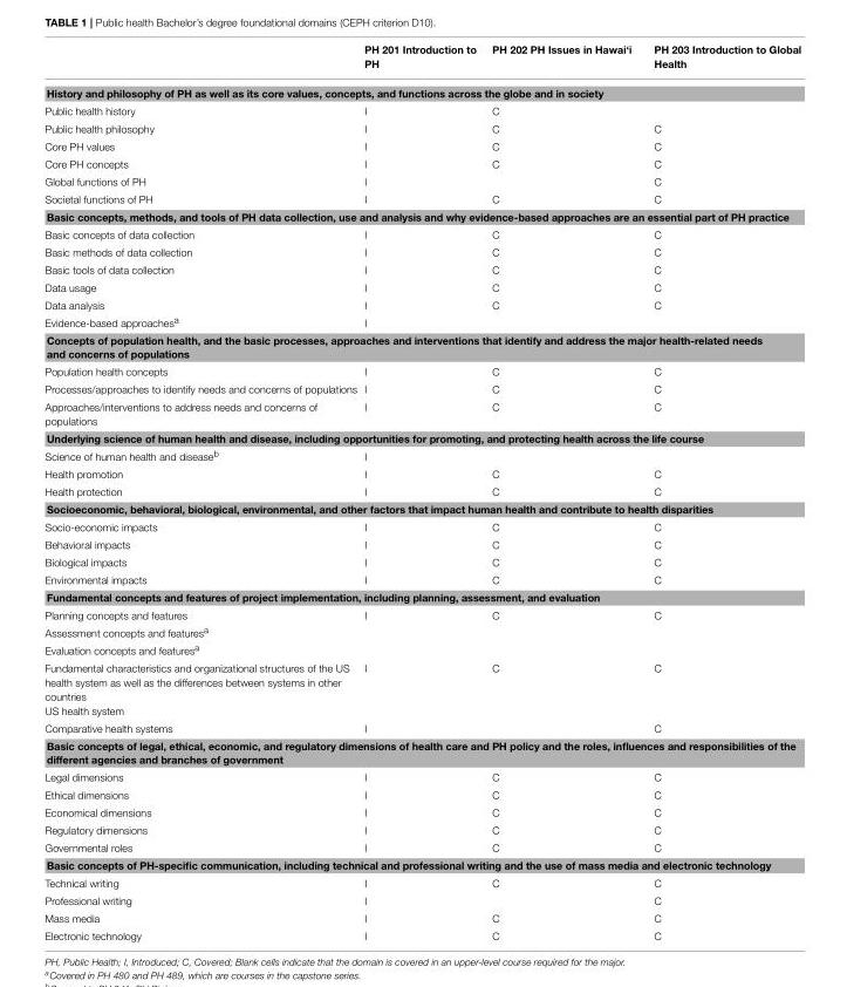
<table><thead><tr><td></td><td>PH 201 Introduction to PH</td><td>PH 202 PH Issues in Hawai‘i</td><td>PH 203 Introduction to Global Health</td></tr></thead><tbody><tr><td colspan="4">History and philosophy of PH as well as its core values, concepts, and functions across the globe and in society</td></tr><tr><td>Public health history</td><td>I</td><td>C</td><td></td></tr><tr><td>Public health philosophy</td><td>I</td><td>C</td><td>C</td></tr><tr><td>Core PH values</td><td>I</td><td>C</td><td>C</td></tr><tr><td>Core PH concepts</td><td>I</td><td>C</td><td>C</td></tr><tr><td>Global functions of PH</td><td>I</td><td></td><td>C</td></tr><tr><td>Societal functions of PH</td><td>I</td><td>C</td><td>C</td></tr><tr><td colspan="4">Basic concepts, methods, and tools of PH data collection, use and analysis and why evidence-based approaches are an essential part of PH practice</td></tr><tr><td>Basic concepts of data collection</td><td>I</td><td>C</td><td>C</td></tr><tr><td>Basic methods of data collection</td><td>I</td><td>C</td><td>C</td></tr><tr><td>Basic tools of data collection</td><td>I</td><td>C</td><td>C</td></tr><tr><td>Data usage</td><td>I</td><td>C</td><td>C</td></tr><tr><td>Data analysis</td><td>I</td><td>C</td><td>C</td></tr><tr><td>Evidence-based approaches<sup>a</sup></td><td>I</td><td></td><td></td></tr><tr><td colspan="4">Concepts of population health, and the basic processes, approaches and interventions that identify and address the major health-related needs and concerns of populations</td></tr><tr><td>Population health concepts</td><td>I</td><td>C</td><td>C</td></tr><tr><td>Processes/approaches to identify needs and concerns of populations</td><td>I</td><td>C</td><td>C</td></tr><tr><td>Approaches/interventions to address needs and concerns of populations</td><td>I</td><td>C</td><td>C</td></tr><tr><td colspan="4">Underlying science of human health and disease, including opportunities for promoting, and protecting health across the life course</td></tr><tr><td>Science of human health and disease<sup>b</sup></td><td>I</td><td></td><td></td></tr><tr><td>Health promotion</td><td>I</td><td>C</td><td>C</td></tr><tr><td>Health protection</td><td>I</td><td>C</td><td>C</td></tr><tr><td colspan="4">Socioeconomic, behavioral, biological, environmental, and other factors that impact human health and contribute to health disparities</td></tr><tr><td>Socio-economic impacts</td><td>I</td><td>C</td><td>C</td></tr><tr><td>Behavioral impacts</td><td>I</td><td>C</td><td>C</td></tr><tr><td>Biological impacts</td><td>I</td><td>C</td><td>C</td></tr><tr><td>Environmental impacts</td><td>I</td><td>C</td><td>C</td></tr><tr><td colspan="4">Fundamental concepts and features of project implementation, including planning, assessment, and evaluation</td></tr><tr><td>Planning concepts and features</td><td>I</td><td>C</td><td>C</td></tr><tr><td colspan="4">Assessment concepts and features<sup>a</sup></td></tr><tr><td colspan="4">Evaluation concepts and features<sup>a</sup></td></tr><tr><td>Fundamental characteristics and organizational structures of the US health system as well as the differences between systems in other countries</td><td>I</td><td>C</td><td>C</td></tr><tr><td colspan="4">US health system</td></tr><tr><td>Comparative health systems</td><td>I</td><td></td><td>C</td></tr><tr><td colspan="4">Basic concepts of legal, ethical, economic, and regulatory dimensions of health care and PH policy and the roles, influences and responsibilities of the different agencies and branches of government</td></tr><tr><td>Legal dimensions</td><td>I</td><td>C</td><td>C</td></tr><tr><td>Ethical dimensions</td><td>I</td><td>C</td><td>C</td></tr><tr><td>Economical dimensions</td><td>I</td><td>C</td><td>C</td></tr><tr><td>Regulatory dimensions</td><td>I</td><td>C</td><td>C</td></tr><tr><td>Governmental roles</td><td>I</td><td>C</td><td>C</td></tr><tr><td colspan="4">Basic concepts of PH-specific communication, including technical and professional writing and the use of mass media and electronic technology</td></tr><tr><td>Technical writing</td><td>I</td><td>C</td><td>C</td></tr><tr><td>Professional writing</td><td>I</td><td></td><td>C</td></tr><tr><td>Mass media</td><td>I</td><td>C</td><td>C</td></tr><tr><td>Electronic technology</td><td>I</td><td>C</td><td>C</td></tr></tbody></table>